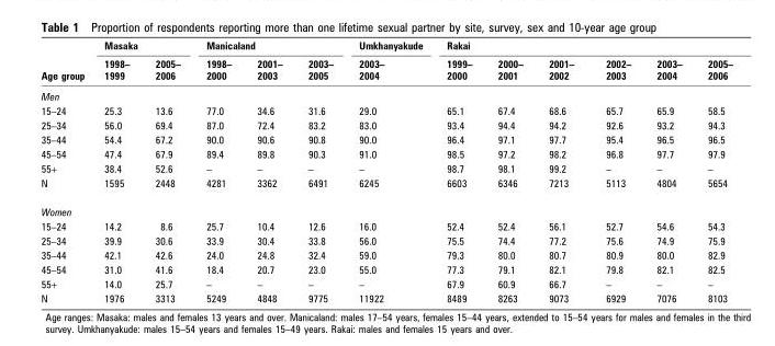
<table><thead><tr><td rowspan="2">Age group</td><td colspan="2">Masaka</td><td colspan="3">Manicaland</td><td rowspan="2">Umkhanyakude 2003– 2004</td><td colspan="6">Rakai</td></tr><tr><td>1998– 1999</td><td>2005– 2006</td><td>1998– 2000</td><td>2001– 2003</td><td>2003– 2005</td><td>1999– 2000</td><td>2000– 2001</td><td>2001– 2002</td><td>2002– 2003</td><td>2003– 2004</td><td>2005– 2006</td></tr></thead><tbody><tr><td colspan="13">Men</td></tr><tr><td>15–24</td><td>25.3</td><td>13.6</td><td>77.0</td><td>34.6</td><td>31.6</td><td>29.0</td><td>65.1</td><td>67.4</td><td>68.6</td><td>65.7</td><td>65.9</td><td>58.5</td></tr><tr><td>25–34</td><td>56.0</td><td>69.4</td><td>87.0</td><td>72.4</td><td>83.2</td><td>83.0</td><td>93.4</td><td>94.4</td><td>94.2</td><td>92.6</td><td>93.2</td><td>94.3</td></tr><tr><td>35–44</td><td>54.4</td><td>67.2</td><td>90.0</td><td>90.6</td><td>90.8</td><td>90.0</td><td>96.4</td><td>97.1</td><td>97.7</td><td>95.4</td><td>96.5</td><td>96.5</td></tr><tr><td>45–54</td><td>47.4</td><td>67.9</td><td>89.4</td><td>89.8</td><td>90.3</td><td>91.0</td><td>98.5</td><td>97.2</td><td>98.2</td><td>96.8</td><td>97.7</td><td>97.9</td></tr><tr><td>55+</td><td>38.4</td><td>52.6</td><td>–</td><td>–</td><td>–</td><td>–</td><td>98.7</td><td>98.1</td><td>99.2</td><td>–</td><td>–</td><td>–</td></tr><tr><td>N</td><td>1595</td><td>2448</td><td>4281</td><td>3362</td><td>6491</td><td>6245</td><td>6603</td><td>6346</td><td>7213</td><td>5113</td><td>4804</td><td>5654</td></tr><tr><td colspan="13">Women</td></tr><tr><td>15–24</td><td>14.2</td><td>8.6</td><td>25.7</td><td>10.4</td><td>12.6</td><td>16.0</td><td>52.4</td><td>52.4</td><td>56.1</td><td>52.7</td><td>54.6</td><td>54.3</td></tr><tr><td>25–34</td><td>39.9</td><td>30.6</td><td>33.9</td><td>30.4</td><td>33.8</td><td>56.0</td><td>75.5</td><td>74.4</td><td>77.2</td><td>75.6</td><td>74.9</td><td>75.9</td></tr><tr><td>35–44</td><td>42.1</td><td>42.6</td><td>24.0</td><td>24.8</td><td>32.4</td><td>59.0</td><td>79.3</td><td>80.0</td><td>80.7</td><td>80.9</td><td>80.0</td><td>82.9</td></tr><tr><td>45–54</td><td>31.0</td><td>41.6</td><td>18.4</td><td>20.7</td><td>23.0</td><td>55.0</td><td>77.3</td><td>79.1</td><td>82.1</td><td>79.8</td><td>82.1</td><td>82.5</td></tr><tr><td>55+</td><td>14.0</td><td>25.7</td><td>–</td><td>–</td><td>–</td><td>–</td><td>67.9</td><td>60.9</td><td>66.7</td><td>–</td><td>–</td><td>–</td></tr><tr><td>N</td><td>1976</td><td>3313</td><td>5249</td><td>4848</td><td>9775</td><td>11922</td><td>8489</td><td>8263</td><td>9073</td><td>6929</td><td>7076</td><td>8103</td></tr></tbody></table>